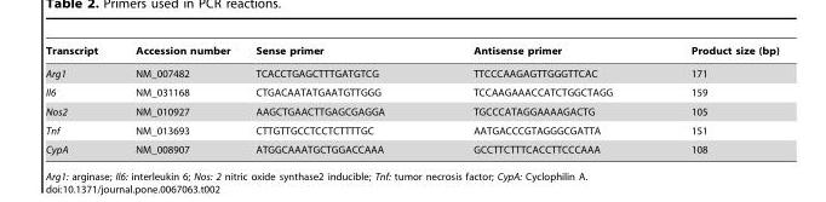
<table><thead><tr><td>Transcript</td><td>Accession number</td><td>Sense primer</td><td>Antisense primer</td><td>Product size (bp)</td></tr></thead><tbody><tr><td>Arg1</td><td>NM_007482</td><td>TCACCTGAGCTTTGATGTCG</td><td>TTCCCAAGAGTTGGGTTCAC</td><td>171</td></tr><tr><td>Il6</td><td>NM_031168</td><td>CTGACAATATGAATGTTGGG</td><td>TCCAAGAAACCATCTGGCTAGG</td><td>159</td></tr><tr><td>Nos2</td><td>NM_010927</td><td>AAGCTGAACTTGAGCGAGGA</td><td>TGCCCATAGGAAAAGACTG</td><td>105</td></tr><tr><td>Tnf</td><td>NM_013693</td><td>CTTGTTGCCTCCTCTTTTGC</td><td>AATGACCCGTAGGGCGATTA</td><td>151</td></tr><tr><td>CypA</td><td>NM_008907</td><td>ATGGCAAATGCTGGACCAAA</td><td>GCCTTCTTTCACCTTCCCAAA</td><td>108</td></tr></tbody></table>